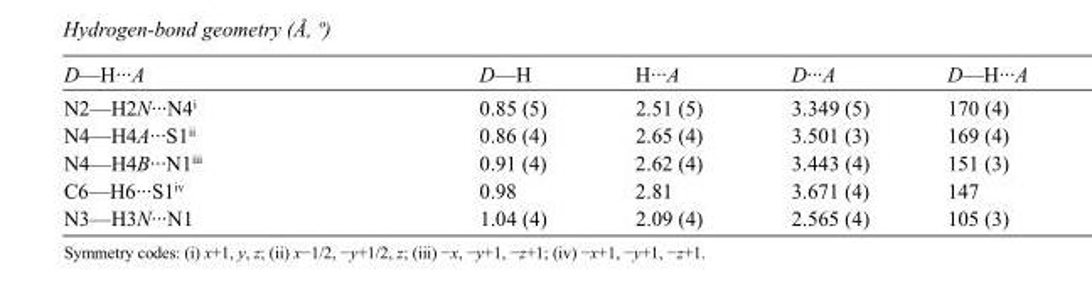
<table><tbody><tr><td>D—H···A</td><td>D—H</td><td>H···A</td><td>D···A</td><td>D—H···A</td></tr><tr><td>N2—H2N···N4<sup>i</sup></td><td>0.85 (5)</td><td>2.51 (5)</td><td>3.349 (5)</td><td>170 (4)</td></tr><tr><td>N4—H4A···S1<sup>ii</sup></td><td>0.86 (4)</td><td>2.65 (4)</td><td>3.501 (3)</td><td>169 (4)</td></tr><tr><td>N4—H4B···N1<sup>iii</sup></td><td>0.91 (4)</td><td>2.62 (4)</td><td>3.443 (4)</td><td>151 (3)</td></tr><tr><td>C6—H6···S1<sup>iv</sup></td><td>0.98</td><td>2.81</td><td>3.671 (4)</td><td>147</td></tr><tr><td>N3—H3N···N1</td><td>1.04 (4)</td><td>2.09 (4)</td><td>2.565 (4)</td><td>105 (3)</td></tr></tbody></table>